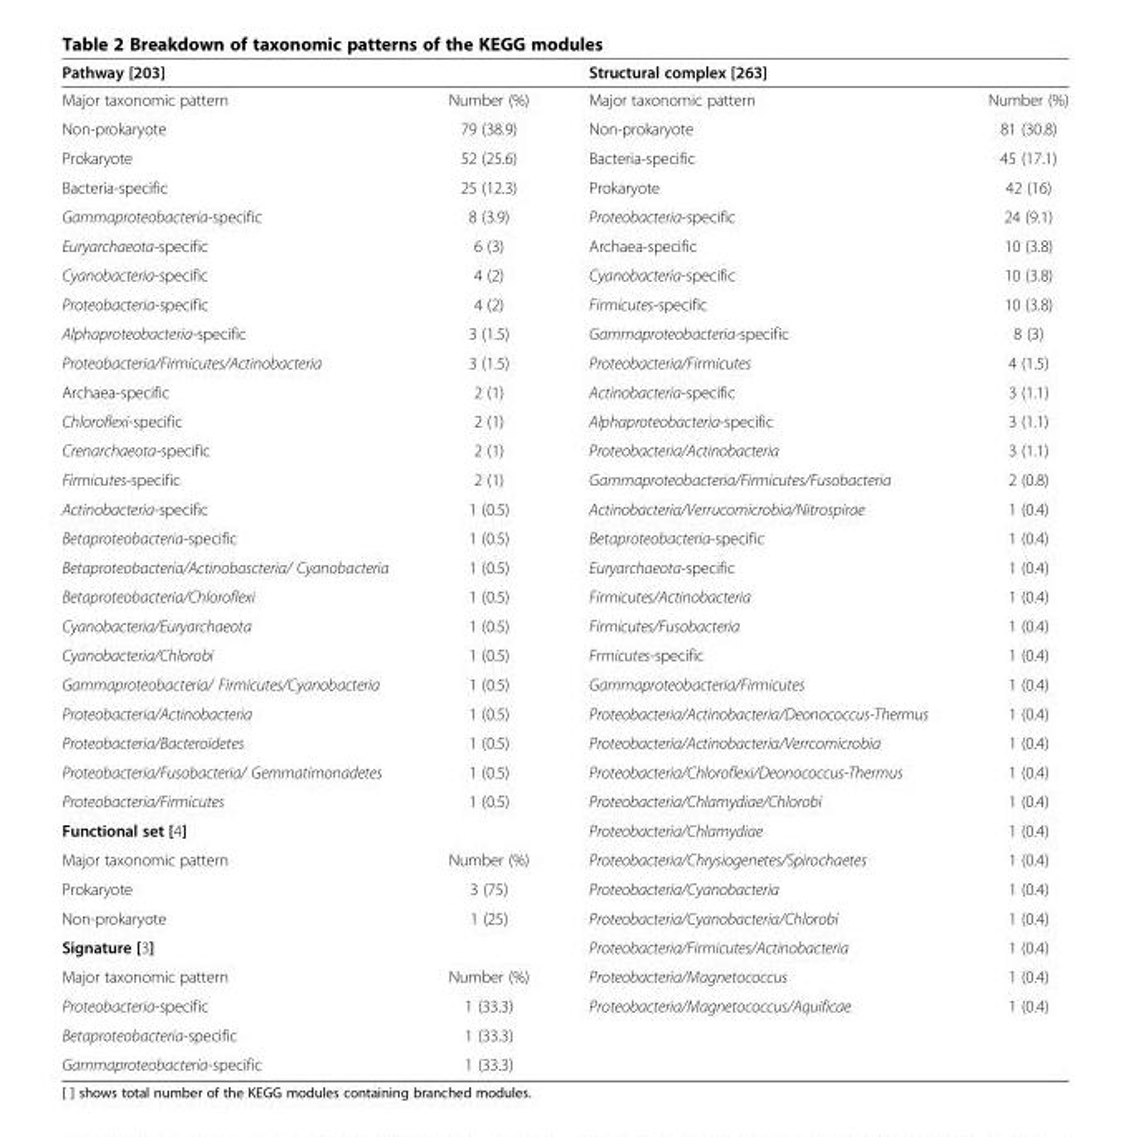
<table><thead><tr><td colspan="2">Pathway [203]</td><td colspan="2">Structural complex [263]</td></tr><tr><td>Major taxonomic pattern</td><td>Number (%)</td><td>Major taxonomic pattern</td><td>Number (%)</td></tr></thead><tbody><tr><td>Non-prokaryote</td><td>79 (38.9)</td><td>Non-prokaryote</td><td>81 (30.8)</td></tr><tr><td>Prokaryote</td><td>52 (25.6)</td><td>Bacteria-specific</td><td>45 (17.1)</td></tr><tr><td>Bacteria-specific</td><td>25 (12.3)</td><td>Prokaryote</td><td>42 (16)</td></tr><tr><td>Gammaproteobacteria-specific</td><td>8 (3.9)</td><td>Proteobacteria-specific</td><td>24 (9.1)</td></tr><tr><td>Euryarchaeota-specific</td><td>6 (3)</td><td>Archaea-specific</td><td>10 (3.8)</td></tr><tr><td>Cyanobacteria-specific</td><td>4 (2)</td><td>Cyanobacteria-specific</td><td>10 (3.8)</td></tr><tr><td>Proteobacteria-specific</td><td>4 (2)</td><td>Firmicutes-specific</td><td>10 (3.8)</td></tr><tr><td>Alphaproteobacteria-specific</td><td>3 (1.5)</td><td>Gammaproteobacteria-specific</td><td>8 (3)</td></tr><tr><td>Proteobacteria/Firmicutes/Actinobacteria</td><td>3 (1.5)</td><td>Proteobacteria/Firmicutes</td><td>4 (1.5)</td></tr><tr><td>Archaea-specific</td><td>2 (1)</td><td>Actinobacteria-specific</td><td>3 (1.1)</td></tr><tr><td>Chloroflexi-specific</td><td>2 (1)</td><td>Alphaproteobacteria-specific</td><td>3 (1.1)</td></tr><tr><td>Crenarchaeota-specific</td><td>2 (1)</td><td>Proteobacteria/Actinobacteria</td><td>3 (1.1)</td></tr><tr><td>Firmicutes-specific</td><td>2 (1)</td><td>Gammaproteobacteria/Firmicutes/Fusobacteria</td><td>2 (0.8)</td></tr><tr><td>Actinobacteria-specific</td><td>1 (0.5)</td><td>Actinobacteria/Verrucomicrobia/Nitrospirae</td><td>1 (0.4)</td></tr><tr><td>Betaproteobacteria-specific</td><td>1 (0.5)</td><td>Betaproteobacteria-specific</td><td>1 (0.4)</td></tr><tr><td>Betaproteobacteria/Actinobascteria/ Cyanobacteria</td><td>1 (0.5)</td><td>Euryarchaeota-specific</td><td>1 (0.4)</td></tr><tr><td>Betaproteobacteria/Chloroflexi</td><td>1 (0.5)</td><td>Firmicutes/Actinobacteria</td><td>1 (0.4)</td></tr><tr><td>Cyanobacteria/Euryarchaeota</td><td>1 (0.5)</td><td>Firmicutes/Fusobacteria</td><td>1 (0.4)</td></tr><tr><td>Cyanobacteria/Chlorobi</td><td>1 (0.5)</td><td>Frmicutes-specific</td><td>1 (0.4)</td></tr><tr><td>Gammaproteobacteria/ Firmicutes/Cyanobacteria</td><td>1 (0.5)</td><td>Gammaproteobacteria/Firmicutes</td><td>1 (0.4)</td></tr><tr><td>Proteobacteria/Actinobacteria</td><td>1 (0.5)</td><td>Proteobacteria/Actinobacteria/Deonococcus-Thermus</td><td>1 (0.4)</td></tr><tr><td>Proteobacteria/Bacteroidetes</td><td>1 (0.5)</td><td>Proteobacteria/Actinobacteria/Verrcomicrobia</td><td>1 (0.4)</td></tr><tr><td>Proteobacteria/Fusobacteria/ Gemmatimonadetes</td><td>1 (0.5)</td><td>Proteobacteria/Chloroflexi/Deonococcus-Thermus</td><td>1 (0.4)</td></tr><tr><td>Proteobacteria/Firmicutes</td><td>1 (0.5)</td><td>Proteobacteria/Chlamydiae/Chlorobi</td><td>1 (0.4)</td></tr><tr><td colspan="2">Functional set [4]</td><td>Proteobacteria/Chlamydiae</td><td>1 (0.4)</td></tr><tr><td>Major taxonomic pattern</td><td>Number (%)</td><td>Proteobacteria/Chrysiogenetes/Spirochaetes</td><td>1 (0.4)</td></tr><tr><td>Prokaryote</td><td>3 (75)</td><td>Proteobacteria/Cyanobacteria</td><td>1 (0.4)</td></tr><tr><td>Non-prokaryote</td><td>1 (25)</td><td>Proteobacteria/Cyanobacteria/Chlorobi</td><td>1 (0.4)</td></tr><tr><td colspan="2">Signature [3]</td><td>Proteobacteria/Firmicutes/Actinobacteria</td><td>1 (0.4)</td></tr><tr><td>Major taxonomic pattern</td><td>Number (%)</td><td>Proteobacteria/Magnetococcus</td><td>1 (0.4)</td></tr><tr><td>Proteobacteria-specific</td><td>1 (33.3)</td><td>Proteobacteria/Magnetococcus/Aquificae</td><td>1 (0.4)</td></tr><tr><td>Betaproteobacteria-specific</td><td>1 (33.3)</td><td></td><td></td></tr><tr><td>Gammaproteobacteria-specific</td><td>1 (33.3)</td><td></td><td></td></tr></tbody></table>